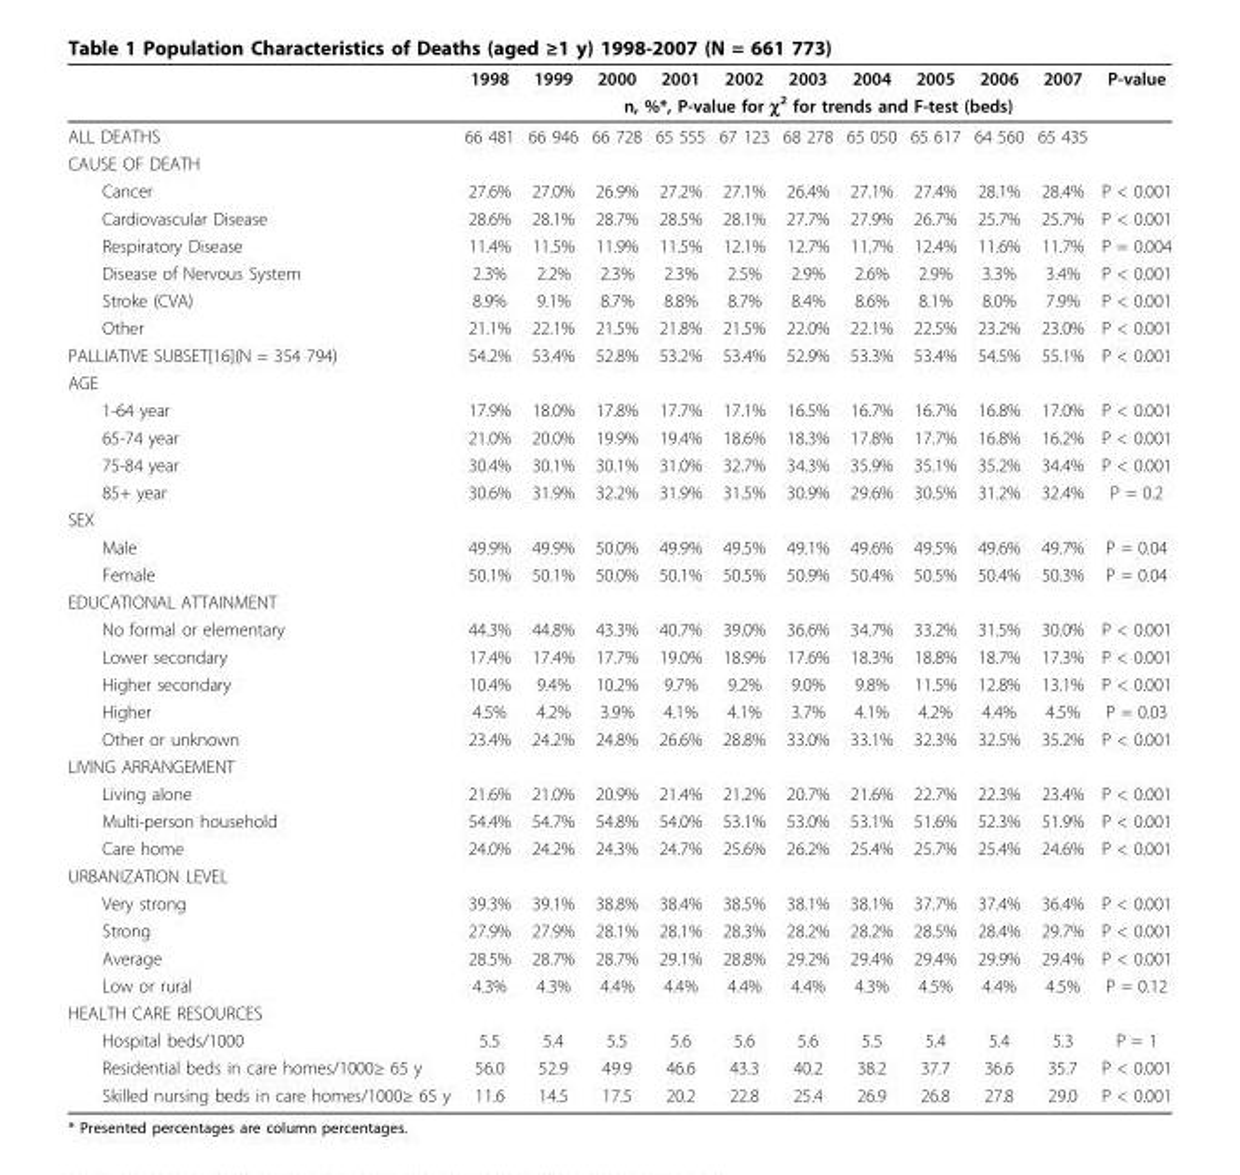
<table><thead><tr><td rowspan="2"></td><td>1998</td><td>1999</td><td>2000</td><td>2001</td><td>2002</td><td>2003</td><td>2004</td><td>2005</td><td>2006</td><td>2007</td><td>P-value</td></tr><tr><td colspan="11">n, %*, P-value for χ<sup>2</sup> for trends and F-test (beds)</td></tr></thead><tbody><tr><td>ALL DEATHS</td><td>66 481</td><td>66 946</td><td>66 728</td><td>65 555</td><td>67 123</td><td>68 278</td><td>65 050</td><td>65 617</td><td>64 560</td><td>65 435</td><td></td></tr><tr><td colspan="12">CAUSE OF DEATH</td></tr><tr><td>Cancer</td><td>27.6%</td><td>27.0%</td><td>26.9%</td><td>27.2%</td><td>27.1%</td><td>26.4%</td><td>27.1%</td><td>27.4%</td><td>28.1%</td><td>28.4%</td><td>P &lt; 0.001</td></tr><tr><td>Cardiovascular Disease</td><td>28.6%</td><td>28.1%</td><td>28.7%</td><td>28.5%</td><td>28.1%</td><td>27.7%</td><td>27.9%</td><td>26.7%</td><td>25.7%</td><td>25.7%</td><td>P &lt; 0.001</td></tr><tr><td>Respiratory Disease</td><td>11.4%</td><td>11.5%</td><td>11.9%</td><td>11.5%</td><td>12.1%</td><td>12.7%</td><td>11.7%</td><td>12.4%</td><td>11.6%</td><td>11.7%</td><td>P = 0.004</td></tr><tr><td>Disease of Nervous System</td><td>2.3%</td><td>2.2%</td><td>2.3%</td><td>2.3%</td><td>2.5%</td><td>2.9%</td><td>2.6%</td><td>2.9%</td><td>3.3%</td><td>3.4%</td><td>P &lt; 0.001</td></tr><tr><td>Stroke (CVA)</td><td>8.9%</td><td>9.1%</td><td>8.7%</td><td>8.8%</td><td>8.7%</td><td>8.4%</td><td>8.6%</td><td>8.1%</td><td>8.0%</td><td>7.9%</td><td>P &lt; 0.001</td></tr><tr><td>Other</td><td>21.1%</td><td>22.1%</td><td>21.5%</td><td>21.8%</td><td>21.5%</td><td>22.0%</td><td>22.1%</td><td>22.5%</td><td>23.2%</td><td>23.0%</td><td>P &lt; 0.001</td></tr><tr><td>PALLIATIVE SUBSET[16](N = 354 794)</td><td>54.2%</td><td>53.4%</td><td>52.8%</td><td>53.2%</td><td>53.4%</td><td>52.9%</td><td>53.3%</td><td>53.4%</td><td>54.5%</td><td>55.1%</td><td>P &lt; 0.001</td></tr><tr><td colspan="12">AGE</td></tr><tr><td>1-64 year</td><td>17.9%</td><td>18.0%</td><td>17.8%</td><td>17.7%</td><td>17.1%</td><td>16.5%</td><td>16.7%</td><td>16.7%</td><td>16.8%</td><td>17.0%</td><td>P &lt; 0.001</td></tr><tr><td>65-74 year</td><td>21.0%</td><td>20.0%</td><td>19.9%</td><td>19.4%</td><td>18.6%</td><td>18.3%</td><td>17.8%</td><td>17.7%</td><td>16.8%</td><td>16.2%</td><td>P &lt; 0.001</td></tr><tr><td>75-84 year</td><td>30.4%</td><td>30.1%</td><td>30.1%</td><td>31.0%</td><td>32.7%</td><td>34.3%</td><td>35.9%</td><td>35.1%</td><td>35.2%</td><td>34.4%</td><td>P &lt; 0.001</td></tr><tr><td>85+ year</td><td>30.6%</td><td>31.9%</td><td>32.2%</td><td>31.9%</td><td>31.5%</td><td>30.9%</td><td>29.6%</td><td>30.5%</td><td>31.2%</td><td>32.4%</td><td>P = 0.2</td></tr><tr><td colspan="12">SEX</td></tr><tr><td>Male</td><td>49.9%</td><td>49.9%</td><td>50.0%</td><td>49.9%</td><td>49.5%</td><td>49.1%</td><td>49.6%</td><td>49.5%</td><td>49.6%</td><td>49.7%</td><td>P = 0.04</td></tr><tr><td>Female</td><td>50.1%</td><td>50.1%</td><td>50.0%</td><td>50.1%</td><td>50.5%</td><td>50.9%</td><td>50.4%</td><td>50.5%</td><td>50.4%</td><td>50.3%</td><td>P = 0.04</td></tr><tr><td colspan="12">EDUCATIONAL ATTAINMENT</td></tr><tr><td>No formal or elementary</td><td>44.3%</td><td>44.8%</td><td>43.3%</td><td>40.7%</td><td>39.0%</td><td>36.6%</td><td>34.7%</td><td>33.2%</td><td>31.5%</td><td>30.0%</td><td>P &lt; 0.001</td></tr><tr><td>Lower secondary</td><td>17.4%</td><td>17.4%</td><td>17.7%</td><td>19.0%</td><td>18.9%</td><td>17.6%</td><td>18.3%</td><td>18.8%</td><td>18.7%</td><td>17.3%</td><td>P &lt; 0.001</td></tr><tr><td>Higher secondary</td><td>10.4%</td><td>9.4%</td><td>10.2%</td><td>9.7%</td><td>9.2%</td><td>9.0%</td><td>9.8%</td><td>11.5%</td><td>12.8%</td><td>13.1%</td><td>P &lt; 0.001</td></tr><tr><td>Higher</td><td>4.5%</td><td>4.2%</td><td>3.9%</td><td>4.1%</td><td>4.1%</td><td>3.7%</td><td>4.1%</td><td>4.2%</td><td>4.4%</td><td>4.5%</td><td>P = 0.03</td></tr><tr><td>Other or unknown</td><td>23.4%</td><td>24.2%</td><td>24.8%</td><td>26.6%</td><td>28.8%</td><td>33.0%</td><td>33.1%</td><td>32.3%</td><td>32.5%</td><td>35.2%</td><td>P &lt; 0.001</td></tr><tr><td colspan="12">LIVING ARRANGEMENT</td></tr><tr><td>Living alone</td><td>21.6%</td><td>21.0%</td><td>20.9%</td><td>21.4%</td><td>21.2%</td><td>20.7%</td><td>21.6%</td><td>22.7%</td><td>22.3%</td><td>23.4%</td><td>P &lt; 0.001</td></tr><tr><td>Multi-person household</td><td>54.4%</td><td>54.7%</td><td>54.8%</td><td>54.0%</td><td>53.1%</td><td>53.0%</td><td>53.1%</td><td>51.6%</td><td>52.3%</td><td>51.9%</td><td>P &lt; 0.001</td></tr><tr><td>Care home</td><td>24.0%</td><td>24.2%</td><td>24.3%</td><td>24.7%</td><td>25.6%</td><td>26.2%</td><td>25.4%</td><td>25.7%</td><td>25.4%</td><td>24.6%</td><td>P &lt; 0.001</td></tr><tr><td colspan="12">URBANIZATION LEVEL</td></tr><tr><td>Very strong</td><td>39.3%</td><td>39.1%</td><td>38.8%</td><td>38.4%</td><td>38.5%</td><td>38.1%</td><td>38.1%</td><td>37.7%</td><td>37.4%</td><td>36.4%</td><td>P &lt; 0.001</td></tr><tr><td>Strong</td><td>27.9%</td><td>27.9%</td><td>28.1%</td><td>28.1%</td><td>28.3%</td><td>28.2%</td><td>28.2%</td><td>28.5%</td><td>28.4%</td><td>29.7%</td><td>P &lt; 0.001</td></tr><tr><td>Average</td><td>28.5%</td><td>28.7%</td><td>28.7%</td><td>29.1%</td><td>28.8%</td><td>29.2%</td><td>29.4%</td><td>29.4%</td><td>29.9%</td><td>29.4%</td><td>P &lt; 0.001</td></tr><tr><td>Low or rural</td><td>4.3%</td><td>4.3%</td><td>4.4%</td><td>4.4%</td><td>4.4%</td><td>4.4%</td><td>4.3%</td><td>4.5%</td><td>4.4%</td><td>4.5%</td><td>P = 0.12</td></tr><tr><td colspan="12">HEALTH CARE RESOURCES</td></tr><tr><td>Hospital beds/1000</td><td>5.5</td><td>5.4</td><td>5.5</td><td>5.6</td><td>5.6</td><td>5.6</td><td>5.5</td><td>5.4</td><td>5.4</td><td>5.3</td><td>P = 1</td></tr><tr><td>Residential beds in care homes/1000≥ 65 y</td><td>56.0</td><td>52.9</td><td>49.9</td><td>46.6</td><td>43.3</td><td>40.2</td><td>38.2</td><td>37.7</td><td>36.6</td><td>35.7</td><td>P &lt; 0.001</td></tr><tr><td>Skilled nursing beds in care homes/1000≥ 65 y</td><td>11.6</td><td>14.5</td><td>17.5</td><td>20.2</td><td>22.8</td><td>25.4</td><td>26.9</td><td>26.8</td><td>27.8</td><td>29.0</td><td>P &lt; 0.001</td></tr></tbody></table>